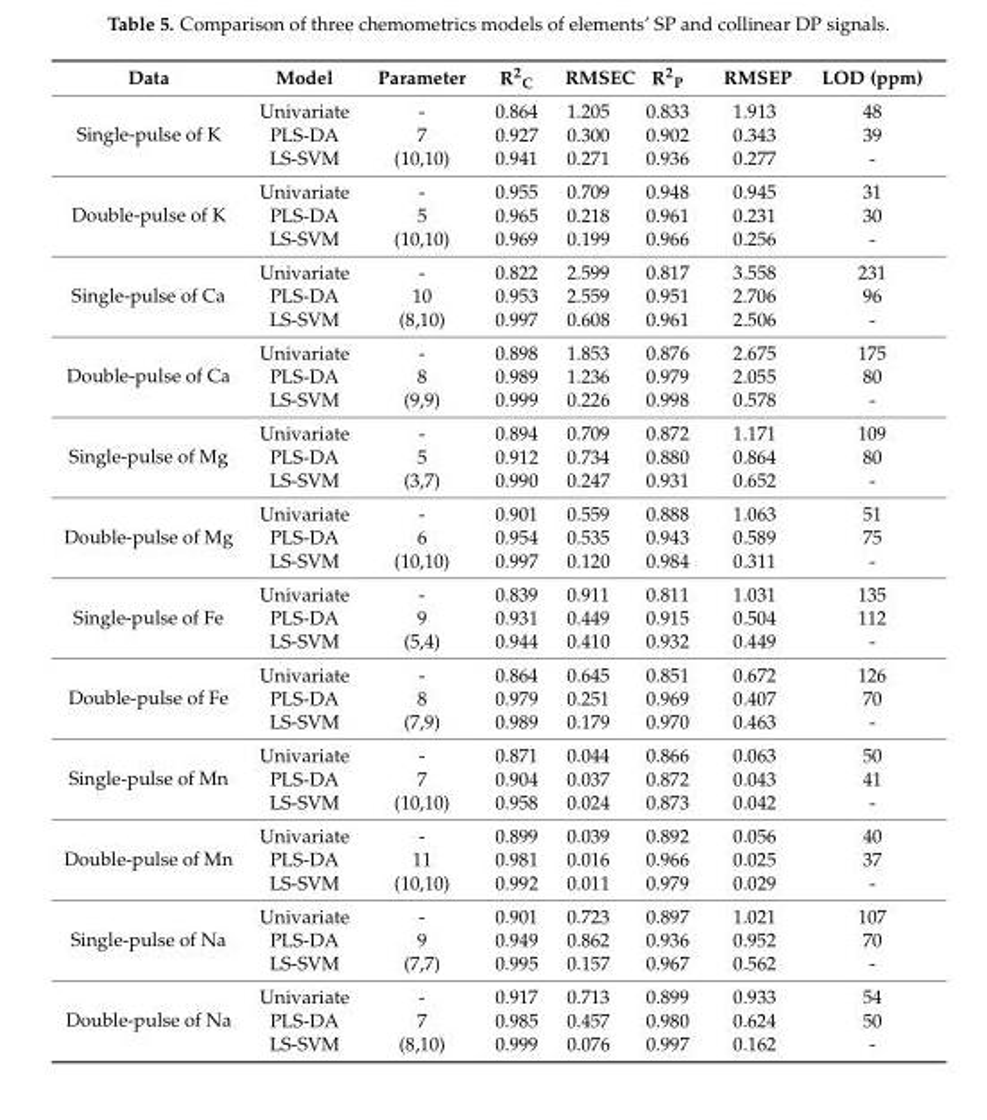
<table><thead><tr><td>Data</td><td>Model</td><td>Parameter</td><td>R<sup>2</sup><sub>C</sub></td><td>RMSEC</td><td>R<sup>2</sup><sub>P</sub></td><td>RMSEP</td><td>LOD (ppm)</td></tr></thead><tbody><tr><td rowspan="3">Single-pulse of K</td><td>Univariate</td><td>-</td><td>0.864</td><td>1.205</td><td>0.833</td><td>1.913</td><td>48</td></tr><tr><td>PLS-DA</td><td>7</td><td>0.927</td><td>0.300</td><td>0.902</td><td>0.343</td><td>39</td></tr><tr><td>LS-SVM</td><td>(10,10)</td><td>0.941</td><td>0.271</td><td>0.936</td><td>0.277</td><td>-</td></tr><tr><td rowspan="3">Double-pulse of K</td><td>Univariate</td><td>-</td><td>0.955</td><td>0.709</td><td>0.948</td><td>0.945</td><td>31</td></tr><tr><td>PLS-DA</td><td>5</td><td>0.965</td><td>0.218</td><td>0.961</td><td>0.231</td><td>30</td></tr><tr><td>LS-SVM</td><td>(10,10)</td><td>0.969</td><td>0.199</td><td>0.966</td><td>0.256</td><td>-</td></tr><tr><td rowspan="3">Single-pulse of Ca</td><td>Univariate</td><td>-</td><td>0.822</td><td>2.599</td><td>0.817</td><td>3.558</td><td>231</td></tr><tr><td>PLS-DA</td><td>10</td><td>0.953</td><td>2.559</td><td>0.951</td><td>2.706</td><td>96</td></tr><tr><td>LS-SVM</td><td>(8,10)</td><td>0.997</td><td>0.608</td><td>0.961</td><td>2.506</td><td>-</td></tr><tr><td rowspan="3">Double-pulse of Ca</td><td>Univariate</td><td>-</td><td>0.898</td><td>1.853</td><td>0.876</td><td>2.675</td><td>175</td></tr><tr><td>PLS-DA</td><td>8</td><td>0.989</td><td>1.236</td><td>0.979</td><td>2.055</td><td>80</td></tr><tr><td>LS-SVM</td><td>(9,9)</td><td>0.999</td><td>0.226</td><td>0.998</td><td>0.578</td><td>-</td></tr><tr><td rowspan="3">Single-pulse of Mg</td><td>Univariate</td><td>-</td><td>0.894</td><td>0.709</td><td>0.872</td><td>1.171</td><td>109</td></tr><tr><td>PLS-DA</td><td>5</td><td>0.912</td><td>0.734</td><td>0.880</td><td>0.864</td><td>80</td></tr><tr><td>LS-SVM</td><td>(3,7)</td><td>0.990</td><td>0.247</td><td>0.931</td><td>0.652</td><td>-</td></tr><tr><td rowspan="3">Double-pulse of Mg</td><td>Univariate</td><td>-</td><td>0.901</td><td>0.559</td><td>0.888</td><td>1.063</td><td>51</td></tr><tr><td>PLS-DA</td><td>6</td><td>0.954</td><td>0.535</td><td>0.943</td><td>0.589</td><td>75</td></tr><tr><td>LS-SVM</td><td>(10,10)</td><td>0.997</td><td>0.120</td><td>0.984</td><td>0.311</td><td>-</td></tr><tr><td rowspan="3">Single-pulse of Fe</td><td>Univariate</td><td>-</td><td>0.839</td><td>0.911</td><td>0.811</td><td>1.031</td><td>135</td></tr><tr><td>PLS-DA</td><td>9</td><td>0.931</td><td>0.449</td><td>0.915</td><td>0.504</td><td>112</td></tr><tr><td>LS-SVM</td><td>(5,4)</td><td>0.944</td><td>0.410</td><td>0.932</td><td>0.449</td><td>-</td></tr><tr><td rowspan="3">Double-pulse of Fe</td><td>Univariate</td><td>-</td><td>0.864</td><td>0.645</td><td>0.851</td><td>0.672</td><td>126</td></tr><tr><td>PLS-DA</td><td>8</td><td>0.979</td><td>0.251</td><td>0.969</td><td>0.407</td><td>70</td></tr><tr><td>LS-SVM</td><td>(7,9)</td><td>0.989</td><td>0.179</td><td>0.970</td><td>0.463</td><td>-</td></tr><tr><td rowspan="3">Single-pulse of Mn</td><td>Univariate</td><td>-</td><td>0.871</td><td>0.044</td><td>0.866</td><td>0.063</td><td>50</td></tr><tr><td>PLS-DA</td><td>7</td><td>0.904</td><td>0.037</td><td>0.872</td><td>0.043</td><td>41</td></tr><tr><td>LS-SVM</td><td>(10,10)</td><td>0.958</td><td>0.024</td><td>0.873</td><td>0.042</td><td>-</td></tr><tr><td rowspan="3">Double-pulse of Mn</td><td>Univariate</td><td>-</td><td>0.899</td><td>0.039</td><td>0.892</td><td>0.056</td><td>40</td></tr><tr><td>PLS-DA</td><td>11</td><td>0.981</td><td>0.016</td><td>0.966</td><td>0.025</td><td>37</td></tr><tr><td>LS-SVM</td><td>(10,10)</td><td>0.992</td><td>0.011</td><td>0.979</td><td>0.029</td><td>-</td></tr><tr><td rowspan="3">Single-pulse of Na</td><td>Univariate</td><td>-</td><td>0.901</td><td>0.723</td><td>0.897</td><td>1.021</td><td>107</td></tr><tr><td>PLS-DA</td><td>9</td><td>0.949</td><td>0.862</td><td>0.936</td><td>0.952</td><td>70</td></tr><tr><td>LS-SVM</td><td>(7,7)</td><td>0.995</td><td>0.157</td><td>0.967</td><td>0.562</td><td>-</td></tr><tr><td rowspan="3">Double-pulse of Na</td><td>Univariate</td><td>-</td><td>0.917</td><td>0.713</td><td>0.899</td><td>0.933</td><td>54</td></tr><tr><td>PLS-DA</td><td>7</td><td>0.985</td><td>0.457</td><td>0.980</td><td>0.624</td><td>50</td></tr><tr><td>LS-SVM</td><td>(8,10)</td><td>0.999</td><td>0.076</td><td>0.997</td><td>0.162</td><td>-</td></tr></tbody></table>